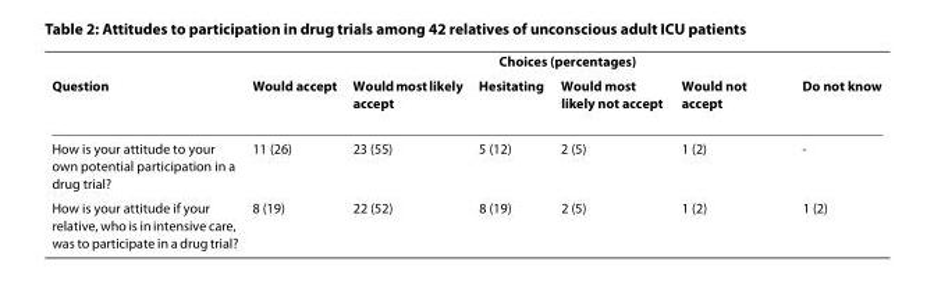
<table><thead><tr><td rowspan="2">Question</td><td colspan="6">Choices (percentages)</td></tr><tr><td>Would accept</td><td>Would most likely accept</td><td>Hesitating</td><td>Would most likely not accept</td><td>Would not accept</td><td>Do not know</td></tr></thead><tbody><tr><td>How is your attitude to your own potential participation in a drug trial?</td><td>11 (26)</td><td>23 (55)</td><td>5 (12)</td><td>2 (5)</td><td>1 (2)</td><td>-</td></tr><tr><td>How is your attitude if your relative, who is in intensive care, was to participate in a drug trial?</td><td>8 (19)</td><td>22 (52)</td><td>8 (19)</td><td>2 (5)</td><td>1 (2)</td><td>1 (2)</td></tr></tbody></table>